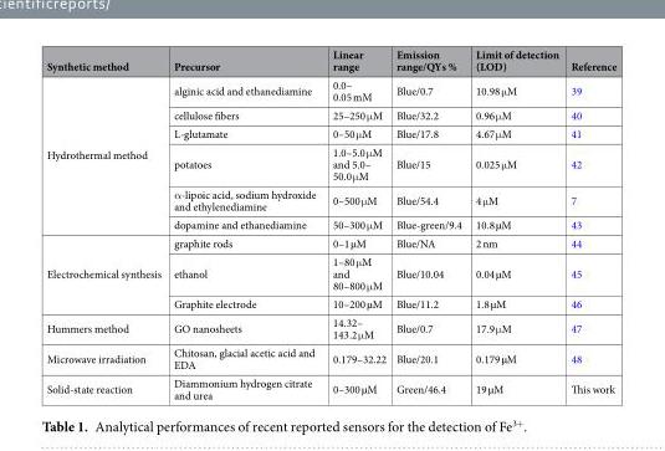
<table><thead><tr><td>Synthetic method</td><td>Precursor</td><td>Linear range</td><td>Emission range/QYs %</td><td>Limit of detection (LOD)</td><td>Reference</td></tr></thead><tbody><tr><td rowspan="6">Hydrothermal method</td><td>alginic acid and ethanediamine</td><td>0.0– 0.05 mM</td><td>Blue/0.7</td><td>10.98 μM</td><td>39</td></tr><tr><td>cellulose fibers</td><td>25–250 μM</td><td>Blue/32.2</td><td>0.96 μM</td><td>40</td></tr><tr><td>L-glutamate</td><td>0–50 μM</td><td>Blue/17.8</td><td>4.67 μM</td><td>41</td></tr><tr><td>potatoes</td><td>1.0–5.0 μM and 5.0– 50.0 μM</td><td>Blue/15</td><td>0.025 μM</td><td>42</td></tr><tr><td>α-lipoic acid, sodium hydroxide and ethylenediamine</td><td>0–500 μM</td><td>Blue/54.4</td><td>4 μM</td><td>7</td></tr><tr><td>dopamine and ethanediamine</td><td>50–300 μM</td><td>Blue-green/9.4</td><td>10.8 µM</td><td>43</td></tr><tr><td rowspan="3">Electrochemical synthesis</td><td>graphite rods</td><td>0–1 µM</td><td>Blue/NA</td><td>2 nm</td><td>44</td></tr><tr><td>ethanol</td><td>1–80 μM and 80–800 μM</td><td>Blue/10.04</td><td>0.04 µM</td><td>45</td></tr><tr><td>Graphite electrode</td><td>10–200 µM</td><td>Blue/11.2</td><td>1.8 µM</td><td>46</td></tr><tr><td>Hummers method</td><td>GO nanosheets</td><td>14.32– 143.2 μM</td><td>Blue/0.7</td><td>17.9 μM</td><td>47</td></tr><tr><td>Microwave irradiation</td><td>Chitosan, glacial acetic acid and EDA</td><td>0.179–32.22</td><td>Blue/20.1</td><td>0.179 µM</td><td>48</td></tr><tr><td>Solid-state reaction</td><td>Diammonium hydrogen citrate and urea</td><td>0–300 µM</td><td>Green/46.4</td><td>19 µM</td><td>This work</td></tr></tbody></table>